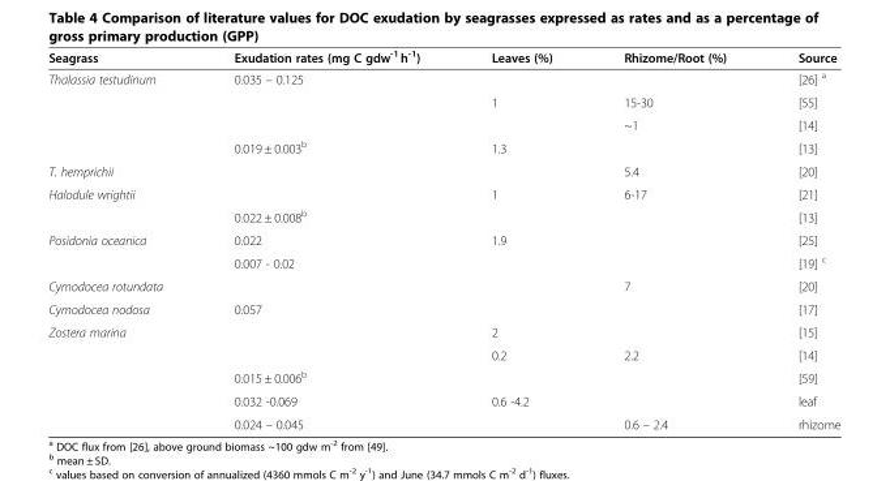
<table><thead><tr><td>Seagrass</td><td>Exudation rates (mg C gdw<sup>-1</sup> h<sup>-1</sup>)</td><td>Leaves (%)</td><td>Rhizome/Root (%)</td><td>Source</td></tr></thead><tbody><tr><td rowspan="4">Thalassia testudinum</td><td>0.035 – 0.125</td><td></td><td></td><td>[26] <sup>a</sup></td></tr><tr><td></td><td>1</td><td>15-30</td><td>[55]</td></tr><tr><td></td><td></td><td>~1</td><td>[14]</td></tr><tr><td>0.019 ± 0.003<sup>b</sup></td><td>1.3</td><td></td><td>[13]</td></tr><tr><td>T. hemprichii</td><td></td><td></td><td>5.4</td><td>[20]</td></tr><tr><td rowspan="2">Halodule wrightii</td><td></td><td>1</td><td>6-17</td><td>[21]</td></tr><tr><td>0.022 ± 0.008<sup>b</sup></td><td></td><td></td><td>[13]</td></tr><tr><td rowspan="2">Posidonia oceanica</td><td>0.022</td><td>1.9</td><td></td><td>[25]</td></tr><tr><td>0.007 - 0.02</td><td></td><td></td><td>[19] <sup>c</sup></td></tr><tr><td>Cymodocea rotundata</td><td></td><td></td><td>7</td><td>[20]</td></tr><tr><td>Cymodocea nodosa</td><td>0.057</td><td></td><td></td><td>[17]</td></tr><tr><td rowspan="5">Zostera marina</td><td></td><td>2</td><td></td><td>[15]</td></tr><tr><td></td><td>0.2</td><td>2.2</td><td>[14]</td></tr><tr><td>0.015 ± 0.006<sup>b</sup></td><td></td><td></td><td>[59]</td></tr><tr><td>0.032 -0.069</td><td>0.6 -4.2</td><td></td><td>leaf</td></tr><tr><td>0.024 – 0.045</td><td></td><td>0.6 – 2.4</td><td>rhizome</td></tr></tbody></table>